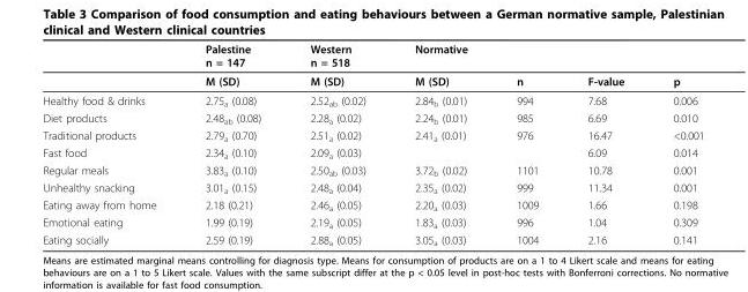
<table><thead><tr><td></td><td>Palestine n = 147</td><td>Western n = 518</td><td>Normative</td><td></td><td></td><td></td></tr></thead><tbody><tr><td></td><td>M (SD)</td><td>M (SD)</td><td>M (SD)</td><td>n</td><td>F-value</td><td>p</td></tr><tr><td>Healthy food &amp; drinks</td><td>2.75<sub>a</sub> (0.08)</td><td>2.52<sub>ab</sub> (0.02)</td><td>2.84<sub>b</sub> (0.01)</td><td>994</td><td>7.68</td><td>0.006</td></tr><tr><td>Diet products</td><td>2.48<sub>ab</sub> (0.08)</td><td>2.28<sub>a</sub> (0.02)</td><td>2.24<sub>b</sub> (0.01)</td><td>985</td><td>6.69</td><td>0.010</td></tr><tr><td>Traditional products</td><td>2.79<sub>a</sub> (0.70)</td><td>2.51<sub>a</sub> (0.02)</td><td>2.41<sub>a</sub> (0.01)</td><td>976</td><td>16.47</td><td>&lt;0.001</td></tr><tr><td>Fast food</td><td>2.34<sub>a</sub> (0.10)</td><td>2.09<sub>a</sub> (0.03)</td><td></td><td></td><td>6.09</td><td>0.014</td></tr><tr><td>Regular meals</td><td>3.83<sub>a</sub> (0.10)</td><td>2.50<sub>ab</sub> (0.03)</td><td>3.72<sub>b</sub> (0.02)</td><td>1101</td><td>10.78</td><td>0.001</td></tr><tr><td>Unhealthy snacking</td><td>3.01<sub>a</sub> (0.15)</td><td>2.48<sub>a</sub> (0.04)</td><td>2.35<sub>a</sub> (0.02)</td><td>999</td><td>11.34</td><td>0.001</td></tr><tr><td>Eating away from home</td><td>2.18 (0.21)</td><td>2.46<sub>a</sub> (0.05)</td><td>2.20<sub>a</sub> (0.03)</td><td>1009</td><td>1.66</td><td>0.198</td></tr><tr><td>Emotional eating</td><td>1.99 (0.19)</td><td>2.19<sub>a</sub> (0.05)</td><td>1.83<sub>a</sub> (0.03)</td><td>996</td><td>1.04</td><td>0.309</td></tr><tr><td>Eating socially</td><td>2.59 (0.19)</td><td>2.88<sub>a</sub> (0.05)</td><td>3.05<sub>a</sub> (0.03)</td><td>1004</td><td>2.16</td><td>0.141</td></tr></tbody></table>